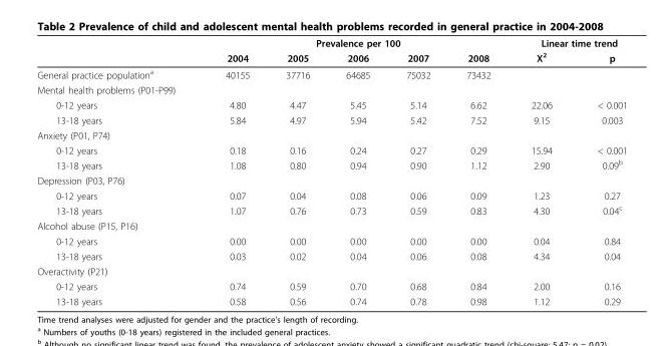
<table><thead><tr><td rowspan="2"></td><td colspan="5">Prevalence per 100</td><td colspan="2">Linear time trend</td></tr><tr><td>2004</td><td>2005</td><td>2006</td><td>2007</td><td>2008</td><td>X<sup>2</sup></td><td>p</td></tr></thead><tbody><tr><td>General practice population<sup>a</sup></td><td>40155</td><td>37716</td><td>64685</td><td>75032</td><td>73432</td><td></td><td></td></tr><tr><td colspan="8">Mental health problems (P01-P99)</td></tr><tr><td>0-12 years</td><td>4.80</td><td>4.47</td><td>5.45</td><td>5.14</td><td>6.62</td><td>22.06</td><td>&lt; 0.001</td></tr><tr><td>13-18 years</td><td>5.84</td><td>4.97</td><td>5.94</td><td>5.42</td><td>7.52</td><td>9.15</td><td>0.003</td></tr><tr><td colspan="8">Anxiety (P01, P74)</td></tr><tr><td>0-12 years</td><td>0.18</td><td>0.16</td><td>0.24</td><td>0.27</td><td>0.29</td><td>15.94</td><td>&lt; 0.001</td></tr><tr><td>13-18 years</td><td>1.08</td><td>0.80</td><td>0.94</td><td>0.90</td><td>1.12</td><td>2.90</td><td>0.09<sup>b</sup></td></tr><tr><td colspan="8">Depression (P03, P76)</td></tr><tr><td>0-12 years</td><td>0.07</td><td>0.04</td><td>0.08</td><td>0.06</td><td>0.09</td><td>1.23</td><td>0.27</td></tr><tr><td>13-18 years</td><td>1.07</td><td>0.76</td><td>0.73</td><td>0.59</td><td>0.83</td><td>4.30</td><td>0.04<sup>c</sup></td></tr><tr><td colspan="8">Alcohol abuse (P15, P16)</td></tr><tr><td>0-12 years</td><td>0.00</td><td>0.00</td><td>0.00</td><td>0.00</td><td>0.00</td><td>0.04</td><td>0.84</td></tr><tr><td>13-18 years</td><td>0.03</td><td>0.02</td><td>0.04</td><td>0.06</td><td>0.08</td><td>4.34</td><td>0.04</td></tr><tr><td colspan="8">Overactivity (P21)</td></tr><tr><td>0-12 years</td><td>0.74</td><td>0.59</td><td>0.70</td><td>0.68</td><td>0.84</td><td>2.00</td><td>0.16</td></tr><tr><td>13-18 years</td><td>0.58</td><td>0.56</td><td>0.74</td><td>0.78</td><td>0.98</td><td>1.12</td><td>0.29</td></tr></tbody></table>